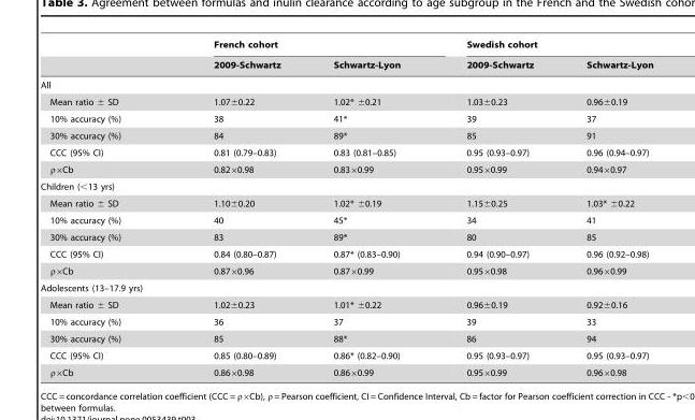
<table><thead><tr><td rowspan="2"></td><td colspan="2">French cohort</td><td colspan="2">Swedish cohort</td></tr><tr><td>2009-Schwartz</td><td>Schwartz-Lyon</td><td>2009-Schwartz</td><td>Schwartz-Lyon</td></tr></thead><tbody><tr><td colspan="5">All</td></tr><tr><td>Mean ratio ± SD</td><td>1.07±0.22</td><td>1.02* ±0.21</td><td>1.03±0.23</td><td>0.96±0.19</td></tr><tr><td>10% accuracy (%)</td><td>38</td><td>41*</td><td>39</td><td>37</td></tr><tr><td>30% accuracy (%)</td><td>84</td><td>89*</td><td>85</td><td>91</td></tr><tr><td>CCC (95% CI)</td><td>0.81 (0.79–0.83)</td><td>0.83 (0.81–0.85)</td><td>0.95 (0.93–0.97)</td><td>0.96 (0.94–0.97)</td></tr><tr><td>ρ×Cb</td><td>0.82×0.98</td><td>0.83×0.99</td><td>0.95×0.99</td><td>0.94×0.97</td></tr><tr><td colspan="5">Children (&lt;13 yrs)</td></tr><tr><td>Mean ratio ± SD</td><td>1.10±0.20</td><td>1.02* ±0.19</td><td>1.15±0.25</td><td>1.03* ±0.22</td></tr><tr><td>10% accuracy (%)</td><td>40</td><td>45*</td><td>34</td><td>41</td></tr><tr><td>30% accuracy (%)</td><td>83</td><td>89*</td><td>80</td><td>85</td></tr><tr><td>CCC (95% CI)</td><td>0.84 (0.80–0.87)</td><td>0.87* (0.83–0.90)</td><td>0.94 (0.90–0.97)</td><td>0.96 (0.92–0.98)</td></tr><tr><td>ρ×Cb</td><td>0.87×0.96</td><td>0.87×0.99</td><td>0.95×0.98</td><td>0.96×0.99</td></tr><tr><td colspan="5">Adolescents (13–17.9 yrs)</td></tr><tr><td>Mean ratio ± SD</td><td>1.02±0.23</td><td>1.01* ±0.22</td><td>0.96±0.19</td><td>0.92±0.16</td></tr><tr><td>10% accuracy (%)</td><td>36</td><td>37</td><td>39</td><td>33</td></tr><tr><td>30% accuracy (%)</td><td>85</td><td>88*</td><td>86</td><td>94</td></tr><tr><td>CCC (95% CI)</td><td>0.85 (0.80–0.89)</td><td>0.86* (0.82–0.90)</td><td>0.95 (0.93–0.97)</td><td>0.95 (0.93–0.97)</td></tr><tr><td>ρ×Cb</td><td>0.86×0.98</td><td>0.86×0.99</td><td>0.95×0.99</td><td>0.96×0.98</td></tr></tbody></table>